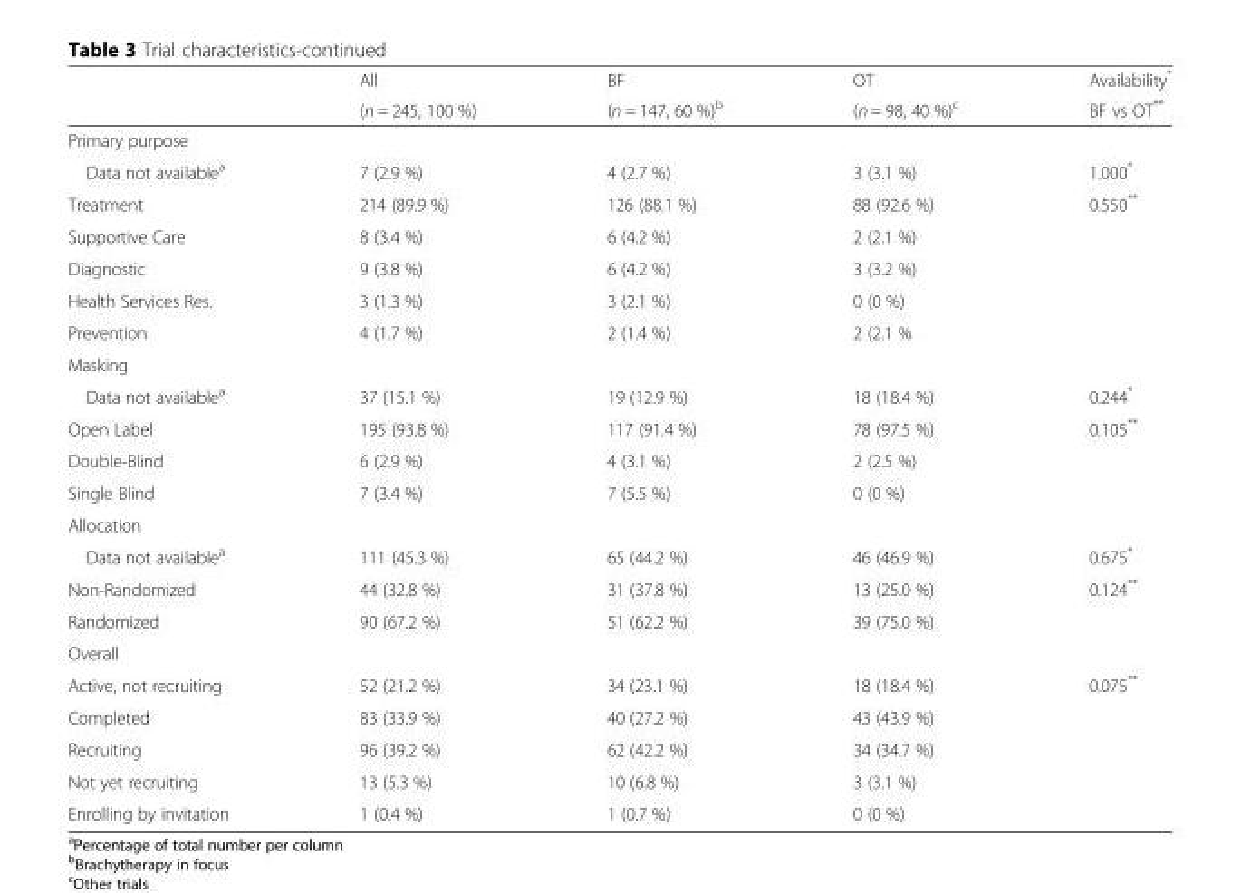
<table><thead><tr><td rowspan="2"></td><td rowspan="2">All (n = 245, 100 %)</td><td rowspan="2">BF (n = 147, 60 %)<sup>b</sup></td><td rowspan="2">OT (n = 98, 40 %)<sup>c</sup></td><td rowspan="2">Availability* BF vs OT**</td></tr><tr></tr></thead><tbody><tr><td colspan="5">Primary purpose</td></tr><tr><td>Data not available<sup>a</sup></td><td>7 (2.9 %)</td><td>4 (2.7 %)</td><td>3 (3.1 %)</td><td>1.000*</td></tr><tr><td>Treatment</td><td>214 (89.9 %)</td><td>126 (88.1 %)</td><td>88 (92.6 %)</td><td rowspan="5">0.550**</td></tr><tr><td>Supportive Care</td><td>8 (3.4 %)</td><td>6 (4.2 %)</td><td>2 (2.1 %)</td></tr><tr><td>Diagnostic</td><td>9 (3.8 %)</td><td>6 (4.2 %)</td><td>3 (3.2 %)</td></tr><tr><td>Health Services Res.</td><td>3 (1.3 %)</td><td>3 (2.1 %)</td><td>0 (0 %)</td></tr><tr><td>Prevention</td><td>4 (1.7 %)</td><td>2 (1.4 %)</td><td>2 (2.1 %</td></tr><tr><td colspan="5">Masking</td></tr><tr><td>Data not available<sup>a</sup></td><td>37 (15.1 %)</td><td>19 (12.9 %)</td><td>18 (18.4 %)</td><td>0.244*</td></tr><tr><td>Open Label</td><td>195 (93.8 %)</td><td>117 (91.4 %)</td><td>78 (97.5 %)</td><td rowspan="3">0.105**</td></tr><tr><td>Double-Blind</td><td>6 (2.9 %)</td><td>4 (3.1 %)</td><td>2 (2.5 %)</td></tr><tr><td>Single Blind</td><td>7 (3.4 %)</td><td>7 (5.5 %)</td><td>0 (0 %)</td></tr><tr><td colspan="5">Allocation</td></tr><tr><td>Data not available<sup>a</sup></td><td>111 (45.3 %)</td><td>65 (44.2 %)</td><td>46 (46.9 %)</td><td>0.675*</td></tr><tr><td>Non-Randomized</td><td>44 (32.8 %)</td><td>31 (37.8 %)</td><td>13 (25.0 %)</td><td rowspan="2">0.124**</td></tr><tr><td>Randomized</td><td>90 (67.2 %)</td><td>51 (62.2 %)</td><td>39 (75.0 %)</td></tr><tr><td colspan="5">Overall</td></tr><tr><td>Active, not recruiting</td><td>52 (21.2 %)</td><td>34 (23.1 %)</td><td>18 (18.4 %)</td><td rowspan="5">0.075**</td></tr><tr><td>Completed</td><td>83 (33.9 %)</td><td>40 (27.2 %)</td><td>43 (43.9 %)</td></tr><tr><td>Recruiting</td><td>96 (39.2 %)</td><td>62 (42.2 %)</td><td>34 (34.7 %)</td></tr><tr><td>Not yet recruiting</td><td>13 (5.3 %)</td><td>10 (6.8 %)</td><td>3 (3.1 %)</td></tr><tr><td>Enrolling by invitation</td><td>1 (0.4 %)</td><td>1 (0.7 %)</td><td>0 (0 %)</td></tr></tbody></table>